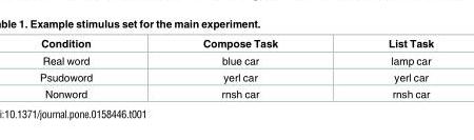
<table><thead><tr><td>Condition</td><td>Compose Task</td><td>List Task</td></tr></thead><tbody><tr><td>Real word</td><td>blue car</td><td>lamp car</td></tr><tr><td>Psudoword</td><td>yerl car</td><td>yerl car</td></tr><tr><td>Nonword</td><td>rnsh car</td><td>rnsh car</td></tr></tbody></table>